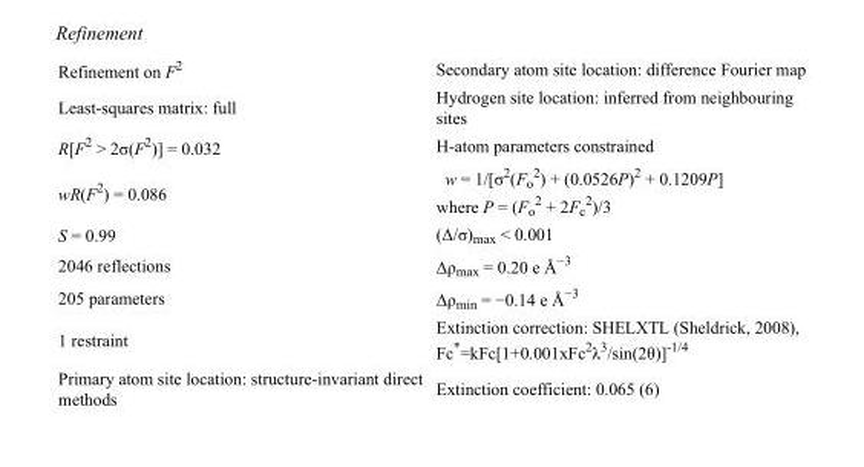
<table><tbody><tr><td>Refinement on F<sup>2</sup></td><td>Secondary atom site location: difference Fourier map</td></tr><tr><td>Least-squares matrix: full</td><td>Hydrogen site location: inferred from neighbouring sites</td></tr><tr><td>R[F<sup>2</sup> &gt; 2σ(F<sup>2</sup>)] = 0.032</td><td>H-atom parameters constrained</td></tr><tr><td>wR(F<sup>2</sup>) = 0.086</td><td>w = 1/[σ<sup>2</sup>(F<sub>o</sub> <sup>2</sup>) + (0.0526P)<sup>2</sup> + 0.1209P] where P = (F<sub>o</sub> <sup>2</sup> + 2F<sub>c</sub> <sup>2</sup>)/3</td></tr><tr><td>S = 0.99</td><td>(Δ/σ)<sub>max</sub> &lt; 0.001</td></tr><tr><td>2046 reflections</td><td>Δρ<sub>max</sub> = 0.20 e Å<sup>−3</sup></td></tr><tr><td>205 parameters</td><td>Δρ<sub>min</sub> = −0.14 e Å<sup>−3</sup></td></tr><tr><td>1 restraint</td><td>Extinction correction: SHELXTL (Sheldrick, 2008), Fc*=kFc[1+0.001xFc<sup>2</sup>λ<sup>3</sup>/sin(2θ)]<sup>-1/4</sup></td></tr><tr><td>Primary atom site location: structure-invariant direct methods</td><td>Extinction coefficient: 0.065 (6)</td></tr></tbody></table>